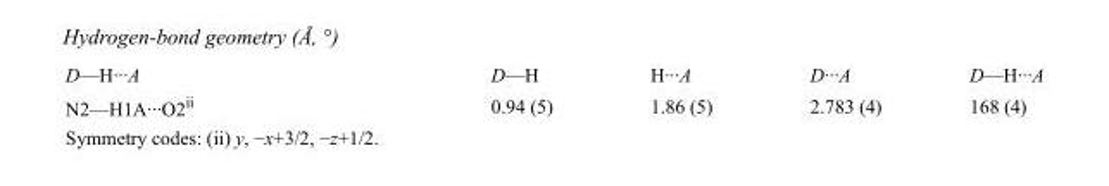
<table><tbody><tr><td>D—H···A</td><td>D—H</td><td>H···A</td><td>D···A</td><td>D—H···A</td></tr><tr><td>N2—H1A···O2<sup>ii</sup></td><td>0.94 (5)</td><td>1.86 (5)</td><td>2.783 (4)</td><td>168 (4)</td></tr></tbody></table>